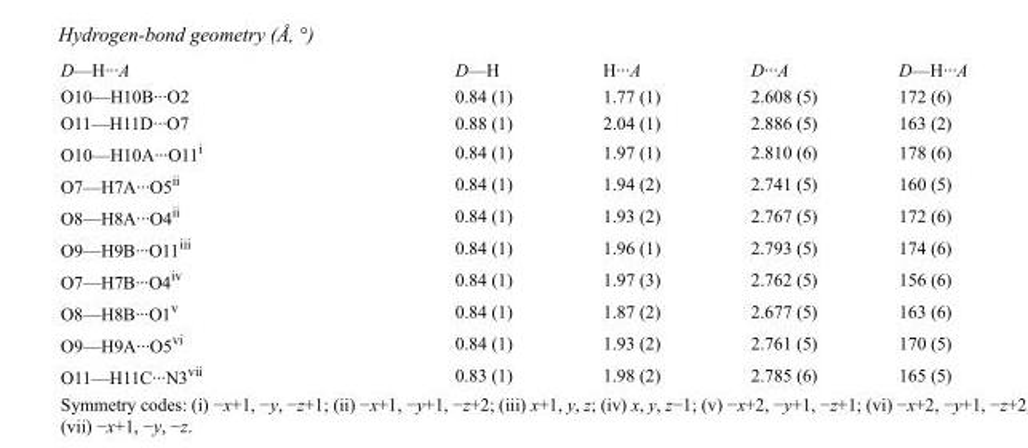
<table><tbody><tr><td>D—H···A</td><td>D—H</td><td>H···A</td><td>D···A</td><td>D—H···A</td></tr><tr><td>O10—H10B···O2</td><td>0.84 (1)</td><td>1.77 (1)</td><td>2.608 (5)</td><td>172 (6)</td></tr><tr><td>O11—H11D···O7</td><td>0.88 (1)</td><td>2.04 (1)</td><td>2.886 (5)</td><td>163 (2)</td></tr><tr><td>O10—H10A···O11<sup>i</sup></td><td>0.84 (1)</td><td>1.97 (1)</td><td>2.810 (6)</td><td>178 (6)</td></tr><tr><td>O7—H7A···O5<sup>ii</sup></td><td>0.84 (1)</td><td>1.94 (2)</td><td>2.741 (5)</td><td>160 (5)</td></tr><tr><td>O8—H8A···O4<sup>ii</sup></td><td>0.84 (1)</td><td>1.93 (2)</td><td>2.767 (5)</td><td>172 (6)</td></tr><tr><td>O9—H9B···O11<sup>iii</sup></td><td>0.84 (1)</td><td>1.96 (1)</td><td>2.793 (5)</td><td>174 (6)</td></tr><tr><td>O7—H7B···O4<sup>iv</sup></td><td>0.84 (1)</td><td>1.97 (3)</td><td>2.762 (5)</td><td>156 (6)</td></tr><tr><td>O8—H8B···O1<sup>v</sup></td><td>0.84 (1)</td><td>1.87 (2)</td><td>2.677 (5)</td><td>163 (6)</td></tr><tr><td>O9—H9A···O5<sup>vi</sup></td><td>0.84 (1)</td><td>1.93 (2)</td><td>2.761 (5)</td><td>170 (5)</td></tr><tr><td>O11—H11C···N3<sup>vii</sup></td><td>0.83 (1)</td><td>1.98 (2)</td><td>2.785 (6)</td><td>165 (5)</td></tr></tbody></table>